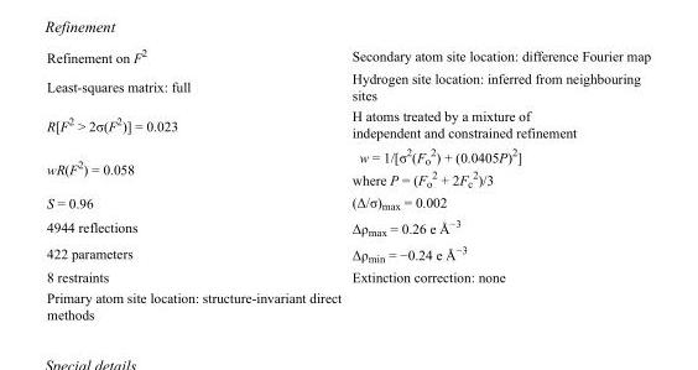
<table><tbody><tr><td>Refinement on F<sup>2</sup></td><td>Secondary atom site location: difference Fourier map</td></tr><tr><td>Least-squares matrix: full</td><td>Hydrogen site location: inferred from neighbouring sites</td></tr><tr><td>R[F<sup>2</sup> &gt; 2σ(F<sup>2</sup>)] = 0.023</td><td>H atoms treated by a mixture of independent and constrained refinement</td></tr><tr><td>wR(F<sup>2</sup>) = 0.058</td><td>w = 1/[σ<sup>2</sup>(F<sub>o</sub> <sup>2</sup>) + (0.0405P)<sup>2</sup>] where P = (F<sub>o</sub> <sup>2</sup> + 2F<sub>c</sub> <sup>2</sup>)/3</td></tr><tr><td>S = 0.96</td><td>(Δ/σ)<sub>max</sub> = 0.002</td></tr><tr><td>4944 reflections</td><td>Δρ<sub>max</sub> = 0.26 e Å<sup>−3</sup></td></tr><tr><td>422 parameters</td><td>Δρ<sub>min</sub> = −0.24 e Å<sup>−3</sup></td></tr><tr><td>8 restraints</td><td>Extinction correction: none</td></tr><tr><td>Primary atom site location: structure-invariant direct methods</td><td></td></tr></tbody></table>